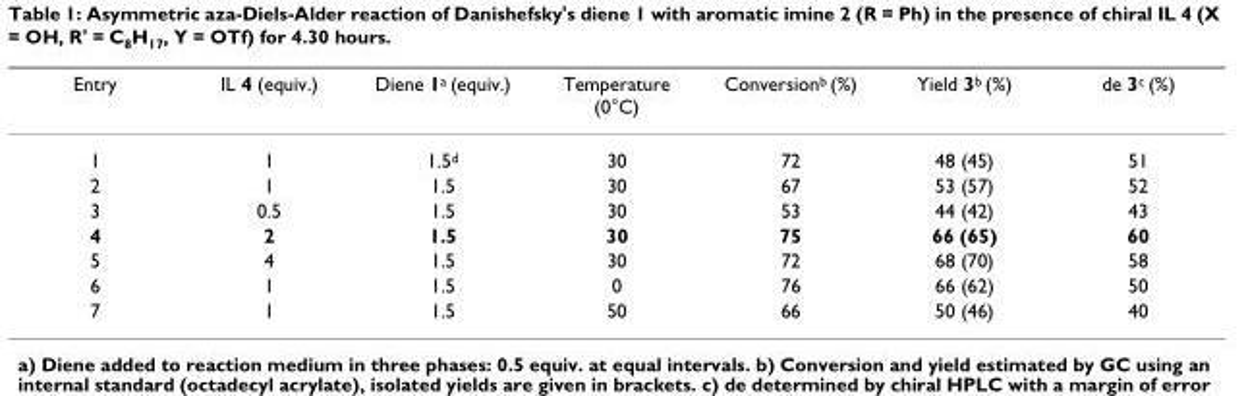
<table><thead><tr><td>Entry</td><td>IL 4 (equiv.)</td><td>Diene 1<sup>a</sup> (equiv.)</td><td>Temperature (0°C)</td><td>Conversion<sup>b</sup> (%)</td><td>Yield 3<sup>b</sup> (%)</td><td>de 3<sup>c</sup> (%)</td></tr></thead><tbody><tr><td>1</td><td>1</td><td>1.5<sup>d</sup></td><td>30</td><td>72</td><td>48 (45)</td><td>51</td></tr><tr><td>2</td><td>1</td><td>1.5</td><td>30</td><td>67</td><td>53 (57)</td><td>52</td></tr><tr><td>3</td><td>0.5</td><td>1.5</td><td>30</td><td>53</td><td>44 (42)</td><td>43</td></tr><tr><td>4</td><td>2</td><td>1.5</td><td>30</td><td>75</td><td>66 (65)</td><td>60</td></tr><tr><td>5</td><td>4</td><td>1.5</td><td>30</td><td>72</td><td>68 (70)</td><td>58</td></tr><tr><td>6</td><td>1</td><td>1.5</td><td>0</td><td>76</td><td>66 (62)</td><td>50</td></tr><tr><td>7</td><td>1</td><td>1.5</td><td>50</td><td>66</td><td>50 (46)</td><td>40</td></tr></tbody></table>